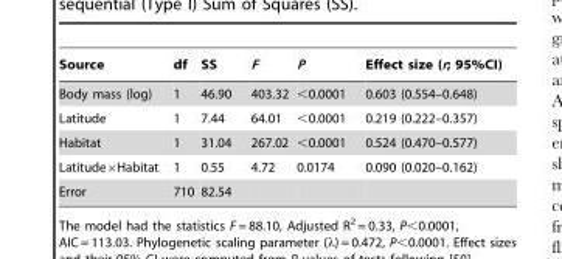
<table><thead><tr><td>Source</td><td>df</td><td>SS</td><td>F</td><td>P</td><td>Effect size (r; 95%CI)</td></tr></thead><tbody><tr><td>Body mass (log)</td><td>1</td><td>46.90</td><td>403.32</td><td>&lt;0.0001</td><td>0.603 (0.554–0.648)</td></tr><tr><td>Latitude</td><td>1</td><td>7.44</td><td>64.01</td><td>&lt;0.0001</td><td>0.219 (0.222–0.357)</td></tr><tr><td>Habitat</td><td>1</td><td>31.04</td><td>267.02</td><td>&lt;0.0001</td><td>0.524 (0.470–0.577)</td></tr><tr><td>Latitude×Habitat</td><td>1</td><td>0.55</td><td>4.72</td><td>0.0174</td><td>0.090 (0.020–0.162)</td></tr><tr><td>Error</td><td>710</td><td>82.54</td><td></td><td></td><td></td></tr></tbody></table>